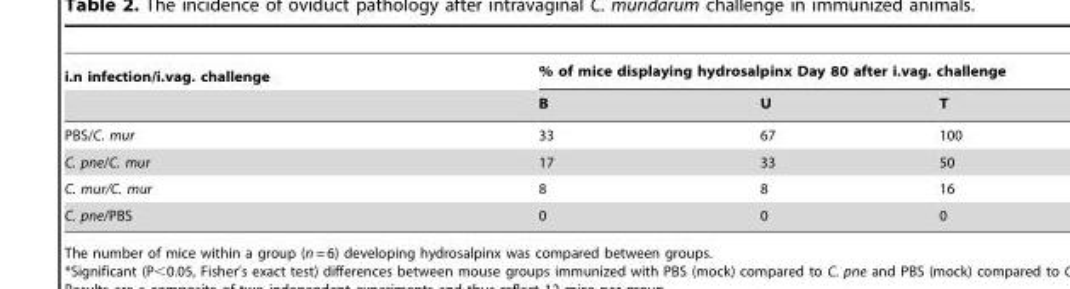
<table><thead><tr><td rowspan="2">i.n infection/i.vag. challenge</td><td colspan="3">% of mice displaying hydrosalpinx Day 80 after i.vag. challenge</td></tr><tr><td>B</td><td>U</td><td>T</td></tr></thead><tbody><tr><td>PBS/C. mur</td><td>33</td><td>67</td><td>100</td></tr><tr><td>C. pne/C. mur</td><td>17</td><td>33</td><td>50</td></tr><tr><td>C. mur/C. mur</td><td>8</td><td>8</td><td>16</td></tr><tr><td>C. pne/PBS</td><td>0</td><td>0</td><td>0</td></tr></tbody></table>